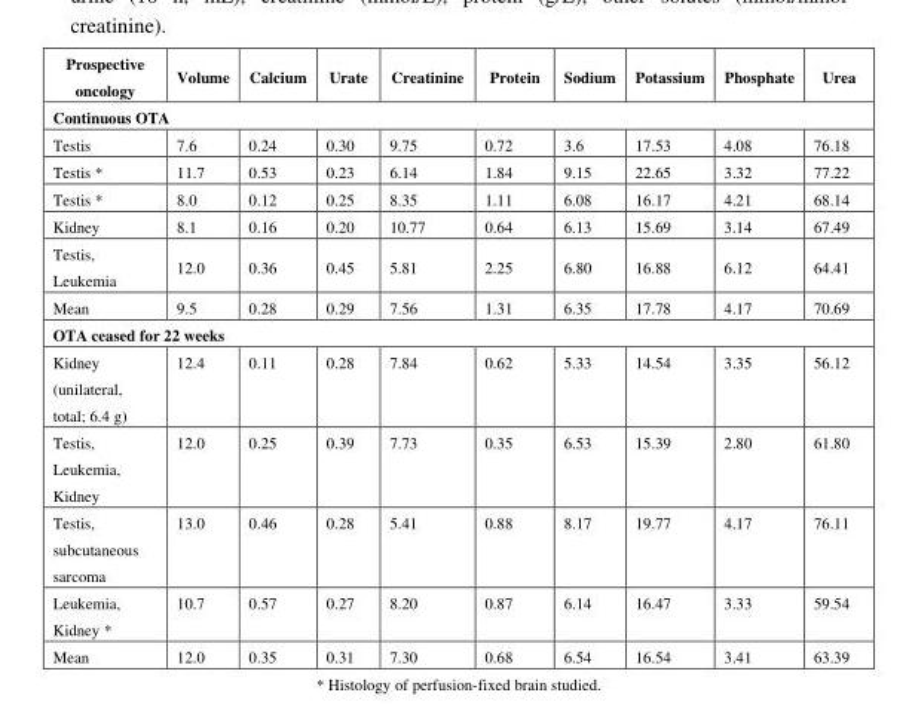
<table><thead><tr><td>Prospective oncology</td><td>Volume</td><td>Calcium</td><td>Urate</td><td>Creatinine</td><td>Protein</td><td>Sodium</td><td>Potassium</td><td>Phosphate</td><td>Urea</td></tr></thead><tbody><tr><td colspan="10">Continuous OTA</td></tr><tr><td>Testis</td><td>7.6</td><td>0.24</td><td>0.30</td><td>9.75</td><td>0.72</td><td>3.6</td><td>17.53</td><td>4.08</td><td>76.18</td></tr><tr><td>Testis *</td><td>11.7</td><td>0.53</td><td>0.23</td><td>6.14</td><td>1.84</td><td>9.15</td><td>22.65</td><td>3.32</td><td>77.22</td></tr><tr><td>Testis *</td><td>8.0</td><td>0.12</td><td>0.25</td><td>8.35</td><td>1.11</td><td>6.08</td><td>16.17</td><td>4.21</td><td>68.14</td></tr><tr><td>Kidney</td><td>8.1</td><td>0.16</td><td>0.20</td><td>10.77</td><td>0.64</td><td>6.13</td><td>15.69</td><td>3.14</td><td>67.49</td></tr><tr><td>Testis, Leukemia</td><td>12.0</td><td>0.36</td><td>0.45</td><td>5.81</td><td>2.25</td><td>6.80</td><td>16.88</td><td>6.12</td><td>64.41</td></tr><tr><td>Mean</td><td>9.5</td><td>0.28</td><td>0.29</td><td>7.56</td><td>1.31</td><td>6.35</td><td>17.78</td><td>4.17</td><td>70.69</td></tr><tr><td colspan="10">OTA ceased for 22 weeks</td></tr><tr><td>Kidney (unilateral, total; 6.4 g)</td><td>12.4</td><td>0.11</td><td>0.28</td><td>7.84</td><td>0.62</td><td>5.33</td><td>14.54</td><td>3.35</td><td>56.12</td></tr><tr><td>Testis, Leukemia, Kidney</td><td>12.0</td><td>0.25</td><td>0.39</td><td>7.73</td><td>0.35</td><td>6.53</td><td>15.39</td><td>2.80</td><td>61.80</td></tr><tr><td>Testis, subcutaneous sarcoma</td><td>13.0</td><td>0.46</td><td>0.28</td><td>5.41</td><td>0.88</td><td>8.17</td><td>19.77</td><td>4.17</td><td>76.11</td></tr><tr><td>Leukemia, Kidney *</td><td>10.7</td><td>0.57</td><td>0.27</td><td>8.20</td><td>0.87</td><td>6.14</td><td>16.47</td><td>3.33</td><td>59.54</td></tr><tr><td>Mean</td><td>12.0</td><td>0.35</td><td>0.31</td><td>7.30</td><td>0.68</td><td>6.54</td><td>16.54</td><td>3.41</td><td>63.39</td></tr></tbody></table>